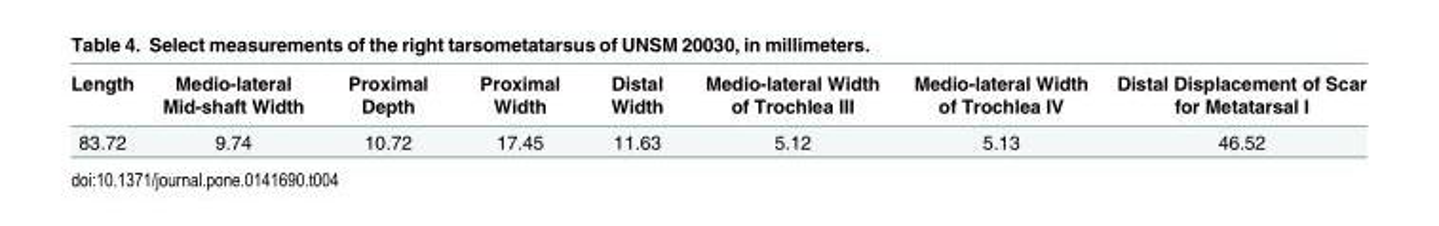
<table><thead><tr><td>Length</td><td>Medio-lateral Mid-shaft Width</td><td>Proximal Depth</td><td>Proximal Width</td><td>Distal Width</td><td>Medio-lateral Width of Trochlea III</td><td>Medio-lateral Width of Trochlea IV</td><td>Distal Displacement of Scar for Metatarsal I</td></tr></thead><tbody><tr><td>83.72</td><td>9.74</td><td>10.72</td><td>17.45</td><td>11.63</td><td>5.12</td><td>5.13</td><td>46.52</td></tr></tbody></table>